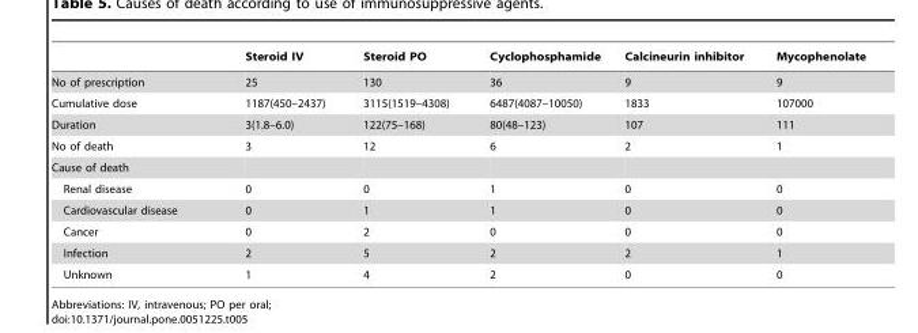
<table><thead><tr><td></td><td>Steroid IV</td><td>Steroid PO</td><td>Cyclophosphamide</td><td>Calcineurin inhibitor</td><td>Mycophenolate</td></tr></thead><tbody><tr><td>No of prescription</td><td>25</td><td>130</td><td>36</td><td>9</td><td>9</td></tr><tr><td>Cumulative dose</td><td>1187(450–2437)</td><td>3115(1519–4308)</td><td>6487(4087–10050)</td><td>1833</td><td>107000</td></tr><tr><td>Duration</td><td>3(1.8–6.0)</td><td>122(75–168)</td><td>80(48–123)</td><td>107</td><td>111</td></tr><tr><td>No of death</td><td>3</td><td>12</td><td>6</td><td>2</td><td>1</td></tr><tr><td colspan="6">Cause of death</td></tr><tr><td>Renal disease</td><td>0</td><td>0</td><td>1</td><td>0</td><td>0</td></tr><tr><td>Cardiovascular disease</td><td>0</td><td>1</td><td>1</td><td>0</td><td>0</td></tr><tr><td>Cancer</td><td>0</td><td>2</td><td>0</td><td>0</td><td>0</td></tr><tr><td>Infection</td><td>2</td><td>5</td><td>2</td><td>2</td><td>1</td></tr><tr><td>Unknown</td><td>1</td><td>4</td><td>2</td><td>0</td><td>0</td></tr></tbody></table>